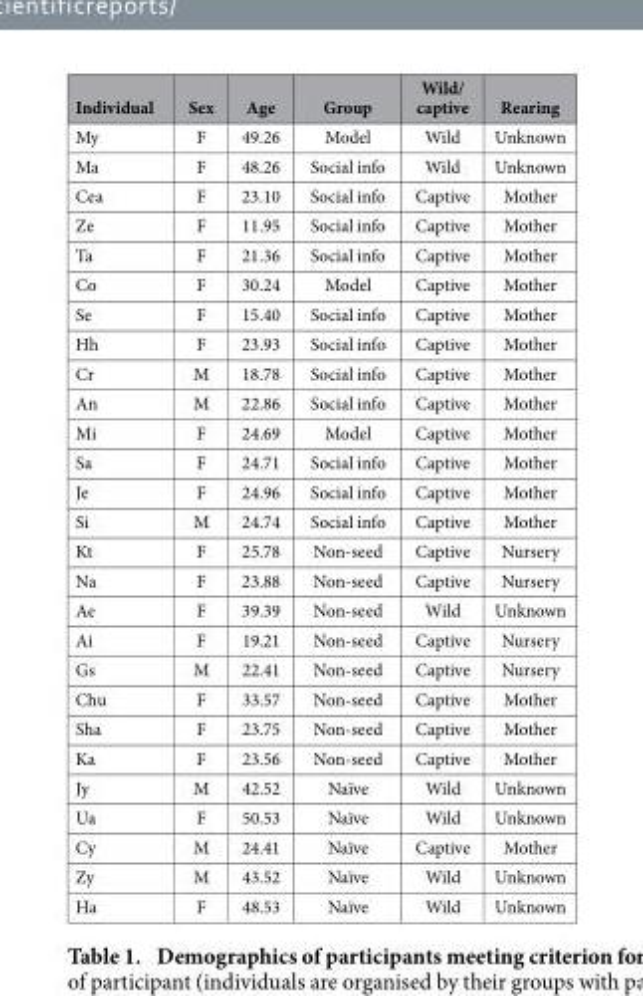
<table><thead><tr><td>Individual</td><td>Sex</td><td>Age</td><td>Group</td><td>Wild/ captive</td><td>Rearing</td></tr></thead><tbody><tr><td>My</td><td>F</td><td>49.26</td><td>Model</td><td>Wild</td><td>Unknown</td></tr><tr><td>Ma</td><td>F</td><td>48.26</td><td>Social info</td><td>Wild</td><td>Unknown</td></tr><tr><td>Cea</td><td>F</td><td>23.10</td><td>Social info</td><td>Captive</td><td>Mother</td></tr><tr><td>Ze</td><td>F</td><td>11.95</td><td>Social info</td><td>Captive</td><td>Mother</td></tr><tr><td>Ta</td><td>F</td><td>21.36</td><td>Social info</td><td>Captive</td><td>Mother</td></tr><tr><td>Co</td><td>F</td><td>30.24</td><td>Model</td><td>Captive</td><td>Mother</td></tr><tr><td>Se</td><td>F</td><td>15.40</td><td>Social info</td><td>Captive</td><td>Mother</td></tr><tr><td>Hh</td><td>F</td><td>23.93</td><td>Social info</td><td>Captive</td><td>Mother</td></tr><tr><td>Cr</td><td>M</td><td>18.78</td><td>Social info</td><td>Captive</td><td>Mother</td></tr><tr><td>An</td><td>M</td><td>22.86</td><td>Social info</td><td>Captive</td><td>Mother</td></tr><tr><td>Mi</td><td>F</td><td>24.69</td><td>Model</td><td>Captive</td><td>Mother</td></tr><tr><td>Sa</td><td>F</td><td>24.71</td><td>Social info</td><td>Captive</td><td>Mother</td></tr><tr><td>Je</td><td>F</td><td>24.96</td><td>Social info</td><td>Captive</td><td>Mother</td></tr><tr><td>Si</td><td>M</td><td>24.74</td><td>Social info</td><td>Captive</td><td>Mother</td></tr><tr><td>Kt</td><td>F</td><td>25.78</td><td>Non-seed</td><td>Captive</td><td>Nursery</td></tr><tr><td>Na</td><td>F</td><td>23.88</td><td>Non-seed</td><td>Captive</td><td>Nursery</td></tr><tr><td>Ae</td><td>F</td><td>39.39</td><td>Non-seed</td><td>Wild</td><td>Unknown</td></tr><tr><td>Ai</td><td>F</td><td>19.21</td><td>Non-seed</td><td>Captive</td><td>Nursery</td></tr><tr><td>Gs</td><td>M</td><td>22.41</td><td>Non-seed</td><td>Captive</td><td>Nursery</td></tr><tr><td>Chu</td><td>F</td><td>33.57</td><td>Non-seed</td><td>Captive</td><td>Mother</td></tr><tr><td>Sha</td><td>F</td><td>23.75</td><td>Non-seed</td><td>Captive</td><td>Mother</td></tr><tr><td>Ka</td><td>F</td><td>23.56</td><td>Non-seed</td><td>Captive</td><td>Mother</td></tr><tr><td>Jy</td><td>M</td><td>42.52</td><td>Naïve</td><td>Wild</td><td>Unknown</td></tr><tr><td>Ua</td><td>F</td><td>50.53</td><td>Naïve</td><td>Wild</td><td>Unknown</td></tr><tr><td>Cy</td><td>M</td><td>24.41</td><td>Naïve</td><td>Captive</td><td>Mother</td></tr><tr><td>Zy</td><td>M</td><td>43.52</td><td>Naïve</td><td>Wild</td><td>Unknown</td></tr><tr><td>Ha</td><td>F</td><td>48.53</td><td>Naïve</td><td>Wild</td><td>Unknown</td></tr></tbody></table>